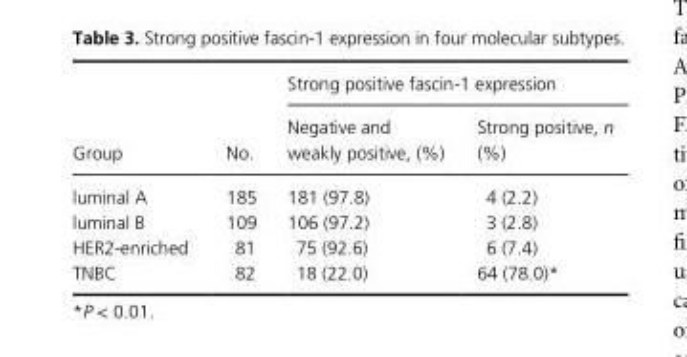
<table><thead><tr><td rowspan="2">Group</td><td rowspan="2">No.</td><td colspan="2">Strong positive fascin- 1 expression</td></tr><tr><td>Negative and weakly positive, (%)</td><td>Strong positive, n (%)</td></tr></thead><tbody><tr><td>luminal A</td><td>185</td><td>181 (97.8)</td><td>4 (2.2)</td></tr><tr><td>luminal B</td><td>109</td><td>106 (97.2)</td><td>3 (2.8)</td></tr><tr><td>HER2- enriched</td><td>81</td><td>75 (92.6)</td><td>6 (7.4)</td></tr><tr><td>TNBC</td><td>82</td><td>18 (22.0)</td><td>64 (78.0)*</td></tr></tbody></table>